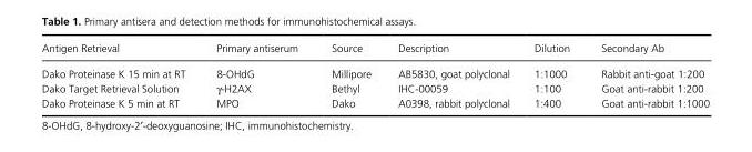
<table><thead><tr><td>Antigen Retrieval</td><td>Primary antiserum</td><td>Source</td><td>Description</td><td>Dilution</td><td>Secondary Ab</td></tr></thead><tbody><tr><td>Dako Proteinase K 15 min at RT</td><td>8- OHdG</td><td>Millipore</td><td>AB5830, goat polyclonal</td><td>1:1000</td><td>Rabbit anti- goat 1:200</td></tr><tr><td>Dako Target Retrieval Solution</td><td>γ- H2AX</td><td>Bethyl</td><td>IHC- 00059</td><td>1:100</td><td>Goat anti- rabbit 1:200</td></tr><tr><td>Dako Proteinase K 5 min at RT</td><td>MPO</td><td>Dako</td><td>A0398, rabbit polyclonal</td><td>1:400</td><td>Goat anti- rabbit 1:1000</td></tr></tbody></table>